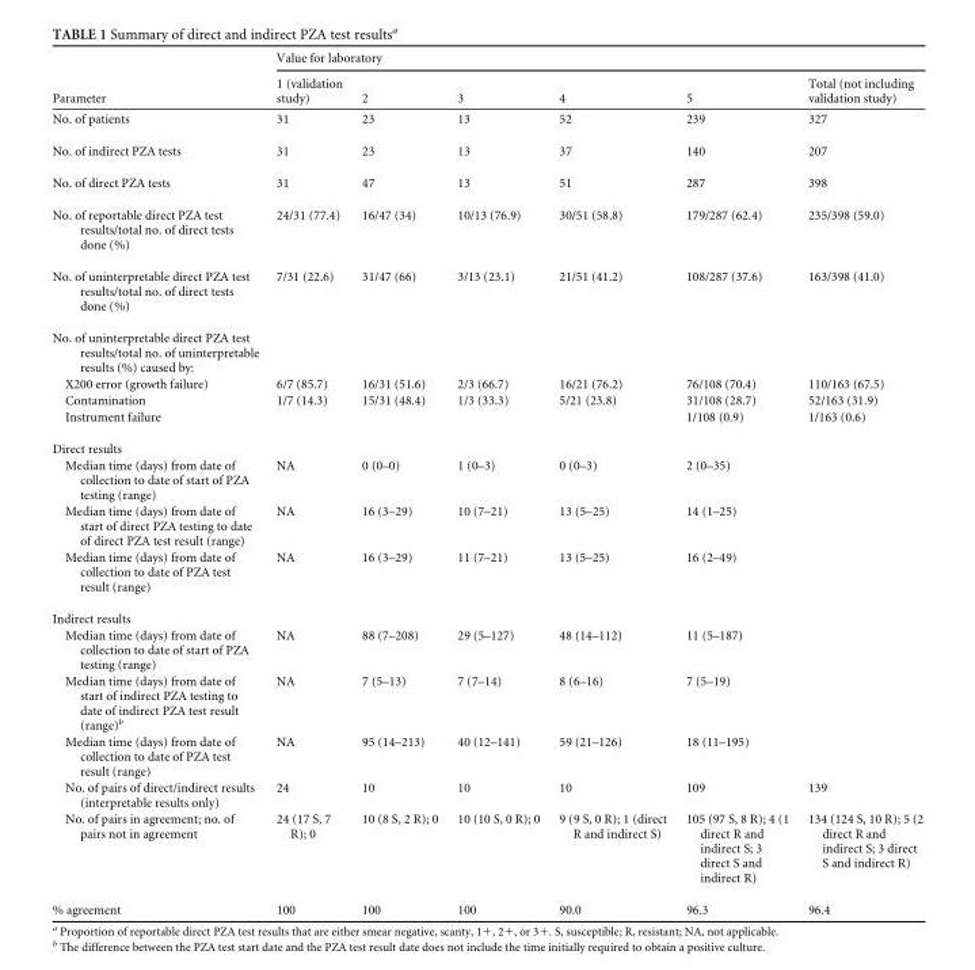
<table><thead><tr><td rowspan="2">Parameter</td><td colspan="6">Value for laboratory</td></tr><tr><td>1 (validation study)</td><td>2</td><td>3</td><td>4</td><td>5</td><td>Total (not including validation study)</td></tr></thead><tbody><tr><td>No. of patients</td><td>31</td><td>23</td><td>13</td><td>52</td><td>239</td><td>327</td></tr><tr><td>No. of indirect PZA tests</td><td>31</td><td>23</td><td>13</td><td>37</td><td>140</td><td>207</td></tr><tr><td>No. of direct PZA tests</td><td>31</td><td>47</td><td>13</td><td>51</td><td>287</td><td>398</td></tr><tr><td>No. of reportable direct PZA test results/total no. of direct tests done (%)</td><td>24/31 (77.4)</td><td>16/47 (34)</td><td>10/13 (76.9)</td><td>30/51 (58.8)</td><td>179/287 (62.4)</td><td>235/398 (59.0)</td></tr><tr><td>No. of uninterpretable direct PZA test results/total no. of direct tests done (%)</td><td>7/31 (22.6)</td><td>31/47 (66)</td><td>3/13 (23.1)</td><td>21/51 (41.2)</td><td>108/287 (37.6)</td><td>163/398 (41.0)</td></tr><tr><td colspan="7">No. of uninterpretable direct PZA test results/total no. of uninterpretable results (%) caused by:</td></tr><tr><td>X200 error (growth failure)</td><td>6/7 (85.7)</td><td>16/31 (51.6)</td><td>2/3 (66.7)</td><td>16/21 (76.2)</td><td>76/108 (70.4)</td><td>110/163 (67.5)</td></tr><tr><td>Contamination</td><td>1/7 (14.3)</td><td>15/31 (48.4)</td><td>1/3 (33.3)</td><td>5/21 (23.8)</td><td>31/108 (28.7)</td><td>52/163 (31.9)</td></tr><tr><td>Instrument failure</td><td></td><td></td><td></td><td></td><td>1/108 (0.9)</td><td>1/163 (0.6)</td></tr><tr><td colspan="7">Direct results</td></tr><tr><td>Median time (days) from date of collection to date of start of PZA testing (range)</td><td>NA</td><td>0 (0–0)</td><td>1 (0–3)</td><td>0 (0–3)</td><td>2 (0–35)</td><td></td></tr><tr><td>Median time (days) from date of start of direct PZA testing to date of direct PZA test result (range)</td><td>NA</td><td>16 (3–29)</td><td>10 (7–21)</td><td>13 (5–25)</td><td>14 (1–25)</td><td></td></tr><tr><td>Median time (days) from date of collection to date of PZA test result (range)</td><td>NA</td><td>16 (3–29)</td><td>11 (7–21)</td><td>13 (5–25)</td><td>16 (2–49)</td><td></td></tr><tr><td colspan="7">Indirect results</td></tr><tr><td>Median time (days) from date of collection to date of start of PZA testing (range)</td><td>NA</td><td>88 (7–208)</td><td>29 (5–127)</td><td>48 (14–112)</td><td>11 (5–187)</td><td></td></tr><tr><td>Median time (days) from date of start of indirect PZA testing to date of indirect PZA test result (range)<sup>b</sup></td><td>NA</td><td>7 (5–13)</td><td>7 (7–14)</td><td>8 (6–16)</td><td>7 (5–19)</td><td></td></tr><tr><td>Median time (days) from date of collection to date of PZA test result (range)</td><td>NA</td><td>95 (14–213)</td><td>40 (12–141)</td><td>59 (21–126)</td><td>18 (11–195)</td><td></td></tr><tr><td>No. of pairs of direct/indirect results (interpretable results only)</td><td>24</td><td>10</td><td>10</td><td>10</td><td>109</td><td>139</td></tr><tr><td>No. of pairs in agreement; no. of pairs not in agreement</td><td>24 (17 S, 7 R); 0</td><td>10 (8 S, 2 R); 0</td><td>10 (10 S, 0 R); 0</td><td>9 (9 S, 0 R); 1 (direct R and indirect S)</td><td>105 (97 S, 8 R); 4 (1 direct R and indirect S; 3 direct S and indirect R)</td><td>134 (124 S, 10 R); 5 (2 direct R and indirect S; 3 direct S and indirect R)</td></tr><tr><td>% agreement</td><td>100</td><td>100</td><td>100</td><td>90.0</td><td>96.3</td><td>96.4</td></tr></tbody></table>